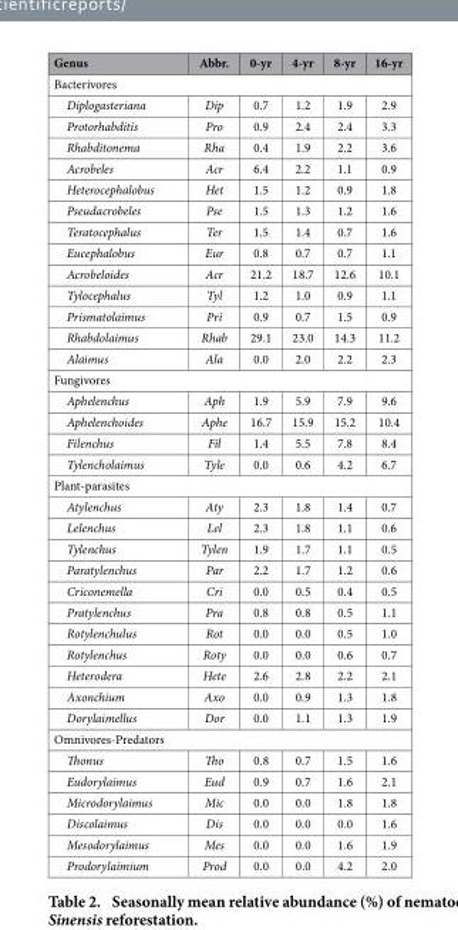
<table><thead><tr><td>Genus</td><td>Abbr.</td><td>0-yr</td><td>4-yr</td><td>8-yr</td><td>16-yr</td></tr></thead><tbody><tr><td colspan="6">Bacterivores</td></tr><tr><td>Diplogasteriana</td><td>Dip</td><td>0.7</td><td>1.2</td><td>1.9</td><td>2.9</td></tr><tr><td>Protorhabditis</td><td>Pro</td><td>0.9</td><td>2.4</td><td>2.4</td><td>3.3</td></tr><tr><td>Rhabditonema</td><td>Rha</td><td>0.4</td><td>1.9</td><td>2.2</td><td>3.6</td></tr><tr><td>Acrobeles</td><td>Acr</td><td>6.4</td><td>2.2</td><td>1.1</td><td>0.9</td></tr><tr><td>Heterocephalobus</td><td>Het</td><td>1.5</td><td>1.2</td><td>0.9</td><td>1.8</td></tr><tr><td>Pseudacrobeles</td><td>Pse</td><td>1.5</td><td>1.3</td><td>1.2</td><td>1.6</td></tr><tr><td>Teratocephalus</td><td>Ter</td><td>1.5</td><td>1.4</td><td>0.7</td><td>1.6</td></tr><tr><td>Eucephalobus</td><td>Eur</td><td>0.8</td><td>0.7</td><td>0.7</td><td>1.1</td></tr><tr><td>Acrobeloides</td><td>Acr</td><td>21.2</td><td>18.7</td><td>12.6</td><td>10.1</td></tr><tr><td>Tylocephalus</td><td>Tyl</td><td>1.2</td><td>1.0</td><td>0.9</td><td>1.1</td></tr><tr><td>Prismatolaimus</td><td>Pri</td><td>0.9</td><td>0.7</td><td>1.5</td><td>0.9</td></tr><tr><td>Rhabdolaimus</td><td>Rhab</td><td>29.1</td><td>23.0</td><td>14.3</td><td>11.2</td></tr><tr><td>Alaimus</td><td>Ala</td><td>0.0</td><td>2.0</td><td>2.2</td><td>2.3</td></tr><tr><td colspan="6">Fungivores</td></tr><tr><td>Aphelenchus</td><td>Aph</td><td>1.9</td><td>5.9</td><td>7.9</td><td>9.6</td></tr><tr><td>Aphelenchoides</td><td>Aphe</td><td>16.7</td><td>15.9</td><td>15.2</td><td>10.4</td></tr><tr><td>Filenchus</td><td>Fil</td><td>1.4</td><td>5.5</td><td>7.8</td><td>8.4</td></tr><tr><td>Tylencholaimus</td><td>Tyle</td><td>0.0</td><td>0.6</td><td>4.2</td><td>6.7</td></tr><tr><td colspan="6">Plant-parasites</td></tr><tr><td>Atylenchus</td><td>Aty</td><td>2.3</td><td>1.8</td><td>1.4</td><td>0.7</td></tr><tr><td>Lelenchus</td><td>Lel</td><td>2.3</td><td>1.8</td><td>1.1</td><td>0.6</td></tr><tr><td>Tylenchus</td><td>Tylen</td><td>1.9</td><td>1.7</td><td>1.1</td><td>0.5</td></tr><tr><td>Paratylenchus</td><td>Par</td><td>2.2</td><td>1.7</td><td>1.2</td><td>0.6</td></tr><tr><td>Criconemella</td><td>Cri</td><td>0.0</td><td>0.5</td><td>0.4</td><td>0.5</td></tr><tr><td>Pratylenchus</td><td>Pra</td><td>0.8</td><td>0.8</td><td>0.5</td><td>1.1</td></tr><tr><td>Rotylenchulus</td><td>Rot</td><td>0.0</td><td>0.0</td><td>0.5</td><td>1.0</td></tr><tr><td>Rotylenchus</td><td>Roty</td><td>0.0</td><td>0.0</td><td>0.6</td><td>0.7</td></tr><tr><td>Heterodera</td><td>Hete</td><td>2.6</td><td>2.8</td><td>2.2</td><td>2.1</td></tr><tr><td>Axonchium</td><td>Axo</td><td>0.0</td><td>0.9</td><td>1.3</td><td>1.8</td></tr><tr><td>Dorylaimellus</td><td>Dor</td><td>0.0</td><td>1.1</td><td>1.3</td><td>1.9</td></tr><tr><td colspan="6">Omnivores-Predators</td></tr><tr><td>Thonus</td><td>Tho</td><td>0.8</td><td>0.7</td><td>1.5</td><td>1.6</td></tr><tr><td>Eudorylaimus</td><td>Eud</td><td>0.9</td><td>0.7</td><td>1.6</td><td>2.1</td></tr><tr><td>Microdorylaimus</td><td>Mic</td><td>0.0</td><td>0.0</td><td>1.8</td><td>1.8</td></tr><tr><td>Discolaimus</td><td>Dis</td><td>0.0</td><td>0.0</td><td>0.0</td><td>1.6</td></tr><tr><td>Mesodorylaimus</td><td>Mes</td><td>0.0</td><td>0.0</td><td>1.6</td><td>1.9</td></tr><tr><td>Prodorylaimium</td><td>Prod</td><td>0.0</td><td>0.0</td><td>4.2</td><td>2.0</td></tr></tbody></table>